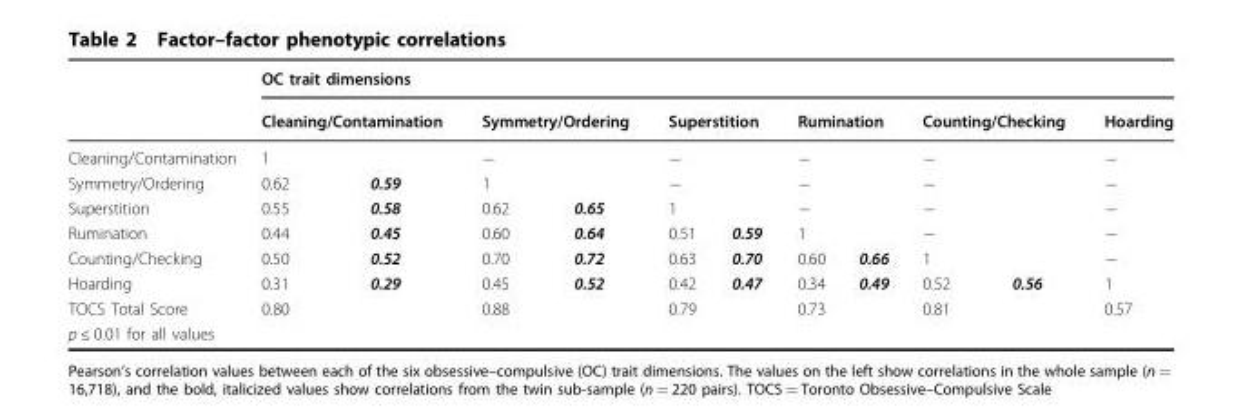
<table><thead><tr><td rowspan="2"></td><td colspan="11">OC trait dimensions</td></tr><tr><td colspan="2">Cleaning/Contamination</td><td colspan="2">Symmetry/Ordering</td><td colspan="2">Superstition</td><td colspan="2">Rumination</td><td colspan="2">Counting/Checking</td><td>Hoarding</td></tr></thead><tbody><tr><td>Cleaning/Contamination</td><td colspan="2">1</td><td colspan="2">−</td><td colspan="2">−</td><td colspan="2">−</td><td colspan="2">−</td><td>−</td></tr><tr><td>Symmetry/Ordering</td><td>0.62</td><td>0.59</td><td colspan="2">1</td><td colspan="2">−</td><td colspan="2">−</td><td colspan="2">−</td><td>−</td></tr><tr><td>Superstition</td><td>0.55</td><td>0.58</td><td>0.62</td><td>0.65</td><td colspan="2">1</td><td colspan="2">−</td><td colspan="2">−</td><td>−</td></tr><tr><td>Rumination</td><td>0.44</td><td>0.45</td><td>0.60</td><td>0.64</td><td>0.51</td><td>0.59</td><td colspan="2">1</td><td colspan="2">−</td><td>−</td></tr><tr><td>Counting/Checking</td><td>0.50</td><td>0.52</td><td>0.70</td><td>0.72</td><td>0.63</td><td>0.70</td><td>0.60</td><td>0.66</td><td colspan="2">1</td><td>−</td></tr><tr><td>Hoarding</td><td>0.31</td><td>0.29</td><td>0.45</td><td>0.52</td><td>0.42</td><td>0.47</td><td>0.34</td><td>0.49</td><td>0.52</td><td>0.56</td><td>1</td></tr><tr><td>TOCS Total Score</td><td colspan="2">0.80</td><td colspan="2">0.88</td><td colspan="2">0.79</td><td colspan="2">0.73</td><td colspan="2">0.81</td><td>0.57</td></tr><tr><td colspan="2">p ≤ 0.01 for all values</td><td></td><td></td><td></td><td></td><td></td><td></td><td></td><td></td><td></td><td></td></tr></tbody></table>